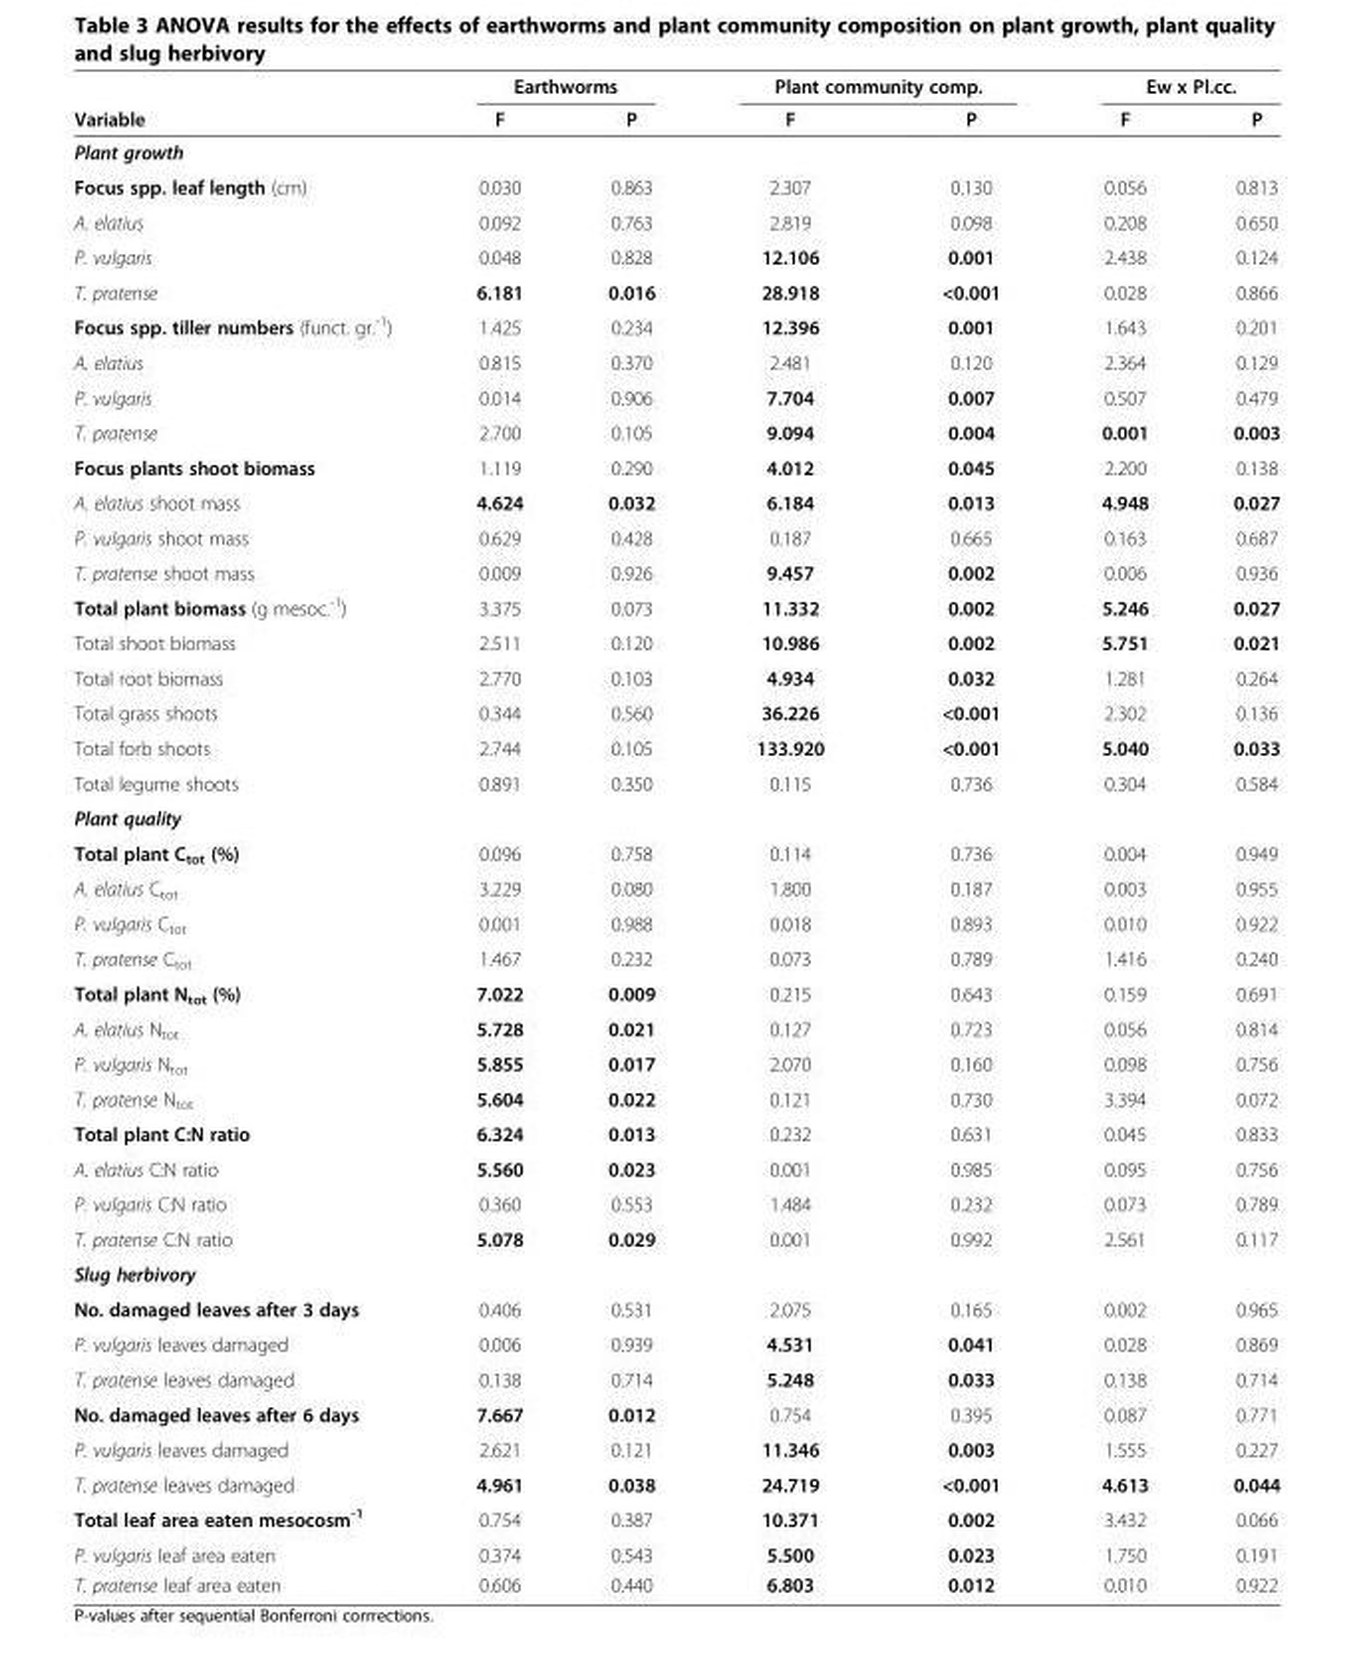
<table><thead><tr><td rowspan="2">Variable</td><td colspan="2">Earthworms</td><td colspan="2">Plant community comp.</td><td colspan="2">Ew x Pl.cc.</td></tr><tr><td>F</td><td>P</td><td>F</td><td>P</td><td>F</td><td>P</td></tr></thead><tbody><tr><td colspan="7">Plant growth</td></tr><tr><td>Focus spp. leaf length (cm)</td><td>0.030</td><td>0.863</td><td>2.307</td><td>0.130</td><td>0.056</td><td>0.813</td></tr><tr><td>A. elatius</td><td>0.092</td><td>0.763</td><td>2.819</td><td>0.098</td><td>0.208</td><td>0.650</td></tr><tr><td>P. vulgaris</td><td>0.048</td><td>0.828</td><td>12.106</td><td>0.001</td><td>2.438</td><td>0.124</td></tr><tr><td>T. pratense</td><td>6.181</td><td>0.016</td><td>28.918</td><td>&lt;0.001</td><td>0.028</td><td>0.866</td></tr><tr><td>Focus spp. tiller numbers (funct. gr.<sup>-1</sup>)</td><td>1.425</td><td>0.234</td><td>12.396</td><td>0.001</td><td>1.643</td><td>0.201</td></tr><tr><td>A. elatius</td><td>0.815</td><td>0.370</td><td>2.481</td><td>0.120</td><td>2.364</td><td>0.129</td></tr><tr><td>P. vulgaris</td><td>0.014</td><td>0.906</td><td>7.704</td><td>0.007</td><td>0.507</td><td>0.479</td></tr><tr><td>T. pratense</td><td>2.700</td><td>0.105</td><td>9.094</td><td>0.004</td><td>0.001</td><td>0.003</td></tr><tr><td>Focus plants shoot biomass</td><td>1.119</td><td>0.290</td><td>4.012</td><td>0.045</td><td>2.200</td><td>0.138</td></tr><tr><td>A. elatius shoot mass</td><td>4.624</td><td>0.032</td><td>6.184</td><td>0.013</td><td>4.948</td><td>0.027</td></tr><tr><td>P. vulgaris shoot mass</td><td>0.629</td><td>0.428</td><td>0.187</td><td>0.665</td><td>0.163</td><td>0.687</td></tr><tr><td>T. pratense shoot mass</td><td>0.009</td><td>0.926</td><td>9.457</td><td>0.002</td><td>0.006</td><td>0.936</td></tr><tr><td>Total plant biomass (g mesoc.<sup>-1</sup>)</td><td>3.375</td><td>0.073</td><td>11.332</td><td>0.002</td><td>5.246</td><td>0.027</td></tr><tr><td>Total shoot biomass</td><td>2.511</td><td>0.120</td><td>10.986</td><td>0.002</td><td>5.751</td><td>0.021</td></tr><tr><td>Total root biomass</td><td>2.770</td><td>0.103</td><td>4.934</td><td>0.032</td><td>1.281</td><td>0.264</td></tr><tr><td>Total grass shoots</td><td>0.344</td><td>0.560</td><td>36.226</td><td>&lt;0.001</td><td>2.302</td><td>0.136</td></tr><tr><td>Total forb shoots</td><td>2.744</td><td>0.105</td><td>133.920</td><td>&lt;0.001</td><td>5.040</td><td>0.033</td></tr><tr><td>Total legume shoots</td><td>0.891</td><td>0.350</td><td>0.115</td><td>0.736</td><td>0.304</td><td>0.584</td></tr><tr><td colspan="7">Plant quality</td></tr><tr><td>Total plant C<sub>tot</sub> (%)</td><td>0.096</td><td>0.758</td><td>0.114</td><td>0.736</td><td>0.004</td><td>0.949</td></tr><tr><td>A. elatius C<sub>tot</sub></td><td>3.229</td><td>0.080</td><td>1.800</td><td>0.187</td><td>0.003</td><td>0.955</td></tr><tr><td>P. vulgaris C<sub>tot</sub></td><td>0.001</td><td>0.988</td><td>0.018</td><td>0.893</td><td>0.010</td><td>0.922</td></tr><tr><td>T. pratense C<sub>tot</sub></td><td>1.467</td><td>0.232</td><td>0.073</td><td>0.789</td><td>1.416</td><td>0.240</td></tr><tr><td>Total plant N<sub>tot</sub> (%)</td><td>7.022</td><td>0.009</td><td>0.215</td><td>0.643</td><td>0.159</td><td>0.691</td></tr><tr><td>A. elatius N<sub>tot</sub></td><td>5.728</td><td>0.021</td><td>0.127</td><td>0.723</td><td>0.056</td><td>0.814</td></tr><tr><td>P. vulgaris N<sub>tot</sub></td><td>5.855</td><td>0.017</td><td>2.070</td><td>0.160</td><td>0.098</td><td>0.756</td></tr><tr><td>T. pratense N<sub>tot</sub></td><td>5.604</td><td>0.022</td><td>0.121</td><td>0.730</td><td>3.394</td><td>0.072</td></tr><tr><td>Total plant C:N ratio</td><td>6.324</td><td>0.013</td><td>0.232</td><td>0.631</td><td>0.045</td><td>0.833</td></tr><tr><td>A. elatius C:N ratio</td><td>5.560</td><td>0.023</td><td>0.001</td><td>0.985</td><td>0.095</td><td>0.756</td></tr><tr><td>P. vulgaris C:N ratio</td><td>0.360</td><td>0.553</td><td>1.484</td><td>0.232</td><td>0.073</td><td>0.789</td></tr><tr><td>T. pratense C:N ratio</td><td>5.078</td><td>0.029</td><td>0.001</td><td>0.992</td><td>2.561</td><td>0.117</td></tr><tr><td colspan="7">Slug herbivory</td></tr><tr><td>No. damaged leaves after 3 days</td><td>0.406</td><td>0.531</td><td>2.075</td><td>0.165</td><td>0.002</td><td>0.965</td></tr><tr><td>P. vulgaris leaves damaged</td><td>0.006</td><td>0.939</td><td>4.531</td><td>0.041</td><td>0.028</td><td>0.869</td></tr><tr><td>T. pratense leaves damaged</td><td>0.138</td><td>0.714</td><td>5.248</td><td>0.033</td><td>0.138</td><td>0.714</td></tr><tr><td>No. damaged leaves after 6 days</td><td>7.667</td><td>0.012</td><td>0.754</td><td>0.395</td><td>0.087</td><td>0.771</td></tr><tr><td>P. vulgaris leaves damaged</td><td>2.621</td><td>0.121</td><td>11.346</td><td>0.003</td><td>1.555</td><td>0.227</td></tr><tr><td>T. pratense leaves damaged</td><td>4.961</td><td>0.038</td><td>24.719</td><td>&lt;0.001</td><td>4.613</td><td>0.044</td></tr><tr><td>Total leaf area eaten mesocosm<sup>-1</sup></td><td>0.754</td><td>0.387</td><td>10.371</td><td>0.002</td><td>3.432</td><td>0.066</td></tr><tr><td>P. vulgaris leaf area eaten</td><td>0.374</td><td>0.543</td><td>5.500</td><td>0.023</td><td>1.750</td><td>0.191</td></tr><tr><td>T. pratense leaf area eaten</td><td>0.606</td><td>0.440</td><td>6.803</td><td>0.012</td><td>0.010</td><td>0.922</td></tr></tbody></table>